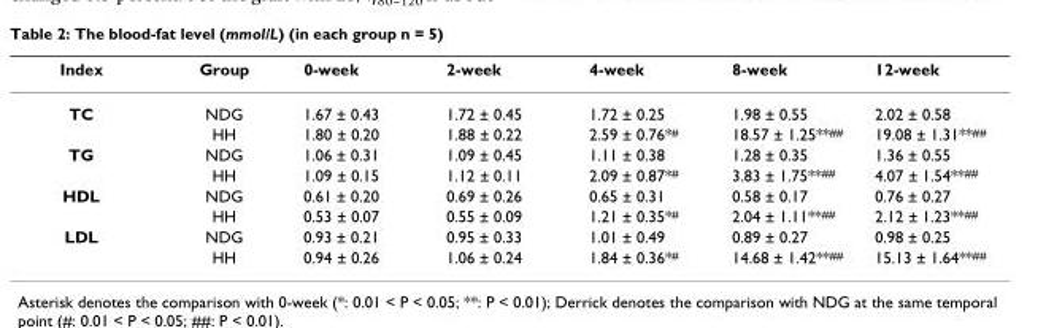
<table><thead><tr><td>Index</td><td>Group</td><td>0-week</td><td>2-week</td><td>4-week</td><td>8-week</td><td>12-week</td></tr></thead><tbody><tr><td rowspan="2">TC</td><td>NDG</td><td>1.67 ± 0.43</td><td>1.72 ± 0.45</td><td>1.72 ± 0.25</td><td>1.98 ± 0.55</td><td>2.02 ± 0.58</td></tr><tr><td>HH</td><td>1.80 ± 0.20</td><td>1.88 ± 0.22</td><td>2.59 ± 0.76*<sup>#</sup></td><td>18.57 ± 1.25**<sup>##</sup></td><td>19.08 ± 1.31**<sup>##</sup></td></tr><tr><td rowspan="2">TG</td><td>NDG</td><td>1.06 ± 0.31</td><td>1.09 ± 0.45</td><td>1.11 ± 0.38</td><td>1.28 ± 0.35</td><td>1.36 ± 0.55</td></tr><tr><td>HH</td><td>1.09 ± 0.15</td><td>1.12 ± 0.11</td><td>2.09 ± 0.87*<sup>#</sup></td><td>3.83 ± 1.75**<sup>##</sup></td><td>4.07 ± 1.54**<sup>##</sup></td></tr><tr><td rowspan="2">HDL</td><td>NDG</td><td>0.61 ± 0.20</td><td>0.69 ± 0.26</td><td>0.65 ± 0.31</td><td>0.58 ± 0.17</td><td>0.76 ± 0.27</td></tr><tr><td>HH</td><td>0.53 ± 0.07</td><td>0.55 ± 0.09</td><td>1.21 ± 0.35*<sup>#</sup></td><td>2.04 ± 1.11**<sup>##</sup></td><td>2.12 ± 1.23**<sup>##</sup></td></tr><tr><td rowspan="2">LDL</td><td>NDG</td><td>0.93 ± 0.21</td><td>0.95 ± 0.33</td><td>1.01 ± 0.49</td><td>0.89 ± 0.27</td><td>0.98 ± 0.25</td></tr><tr><td>HH</td><td>0.94 ± 0.26</td><td>1.06 ± 0.24</td><td>1.84 ± 0.36*<sup>#</sup></td><td>14.68 ± 1.42**<sup>##</sup></td><td>15.13 ± 1.64**<sup>##</sup></td></tr></tbody></table>